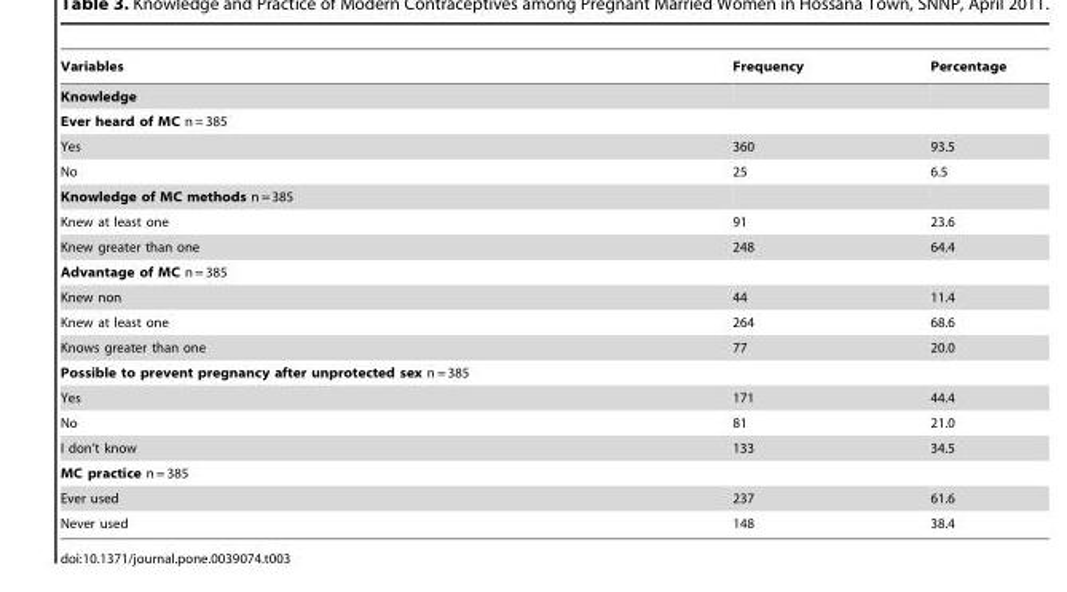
<table><thead><tr><td>Variables</td><td>Frequency</td><td>Percentage</td></tr></thead><tbody><tr><td colspan="3">Knowledge</td></tr><tr><td colspan="3">Ever heard of MC n = 385</td></tr><tr><td>Yes</td><td>360</td><td>93.5</td></tr><tr><td>No</td><td>25</td><td>6.5</td></tr><tr><td colspan="3">Knowledge of MC methods n = 385</td></tr><tr><td>Knew at least one</td><td>91</td><td>23.6</td></tr><tr><td>Knew greater than one</td><td>248</td><td>64.4</td></tr><tr><td colspan="3">Advantage of MC n = 385</td></tr><tr><td>Knew non</td><td>44</td><td>11.4</td></tr><tr><td>Knew at least one</td><td>264</td><td>68.6</td></tr><tr><td>Knows greater than one</td><td>77</td><td>20.0</td></tr><tr><td colspan="3">Possible to prevent pregnancy after unprotected sex n = 385</td></tr><tr><td>Yes</td><td>171</td><td>44.4</td></tr><tr><td>No</td><td>81</td><td>21.0</td></tr><tr><td>I don’t know</td><td>133</td><td>34.5</td></tr><tr><td colspan="3">MC practice n = 385</td></tr><tr><td>Ever used</td><td>237</td><td>61.6</td></tr><tr><td>Never used</td><td>148</td><td>38.4</td></tr></tbody></table>